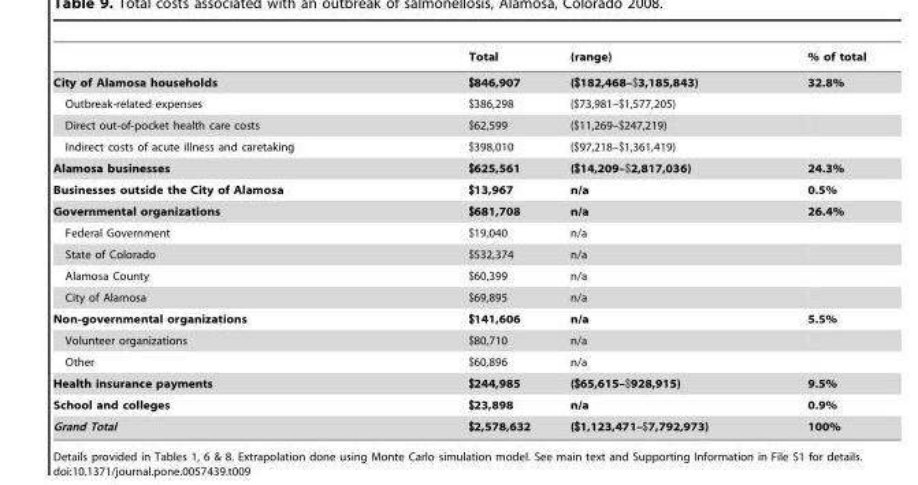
<table><thead><tr><td></td><td>Total</td><td>(range)</td><td>% of total</td></tr></thead><tbody><tr><td>City of Alamosa households</td><td>$846,907</td><td>($182,468–$3,185,843)</td><td>32.8%</td></tr><tr><td>Outbreak-related expenses</td><td>$386,298</td><td>($73,981–$1,577,205)</td><td></td></tr><tr><td>Direct out-of-pocket health care costs</td><td>$62,599</td><td>($11,269–$247,219)</td><td></td></tr><tr><td>Indirect costs of acute illness and caretaking</td><td>$398,010</td><td>($97,218–$1,361,419)</td><td></td></tr><tr><td>Alamosa businesses</td><td>$625,561</td><td>($14,209–$2,817,036)</td><td>24.3%</td></tr><tr><td>Businesses outside the City of Alamosa</td><td>$13,967</td><td>n/a</td><td>0.5%</td></tr><tr><td>Governmental organizations</td><td>$681,708</td><td>n/a</td><td>26.4%</td></tr><tr><td>Federal Government</td><td>$19,040</td><td>n/a</td><td></td></tr><tr><td>State of Colorado</td><td>$532,374</td><td>n/a</td><td></td></tr><tr><td>Alamosa County</td><td>$60,399</td><td>n/a</td><td></td></tr><tr><td>City of Alamosa</td><td>$69,895</td><td>n/a</td><td></td></tr><tr><td>Non-governmental organizations</td><td>$141,606</td><td>n/a</td><td>5.5%</td></tr><tr><td>Volunteer organizations</td><td>$80,710</td><td>n/a</td><td></td></tr><tr><td>Other</td><td>$60,896</td><td>n/a</td><td></td></tr><tr><td>Health insurance payments</td><td>$244,985</td><td>($65,615–$928,915)</td><td>9.5%</td></tr><tr><td>School and colleges</td><td>$23,898</td><td>n/a</td><td>0.9%</td></tr><tr><td>Grand Total</td><td>$2,578,632</td><td>($1,123,471–$7,792,973)</td><td>100%</td></tr></tbody></table>